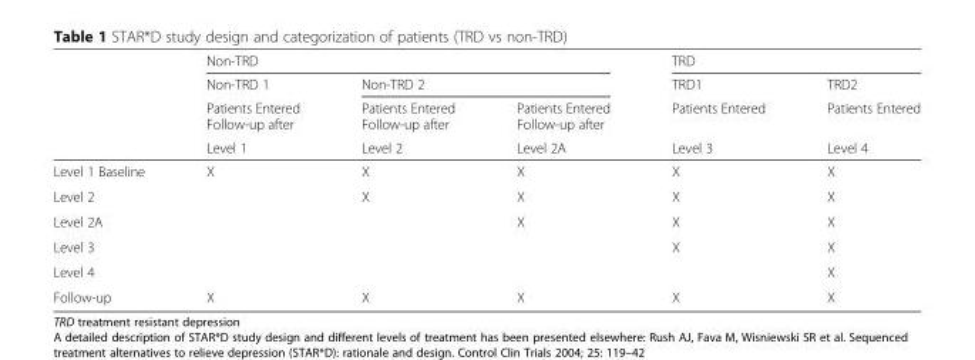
<table><thead><tr><td rowspan="4"></td><td colspan="3">Non-TRD</td><td colspan="2">TRD</td></tr><tr><td rowspan="3">Non-TRD 1 Patients Entered Follow-up after Level 1</td><td colspan="2">Non-TRD 2</td><td rowspan="3">TRD1 Patients Entered Level 3</td><td rowspan="3">TRD2 Patients Entered Level 4</td></tr><tr><td rowspan="2">Patients Entered Follow-up after Level 2</td><td rowspan="2">Patients Entered Follow-up after Level 2A</td></tr><tr></tr></thead><tbody><tr><td>Level 1 Baseline</td><td>X</td><td>X</td><td>X</td><td>X</td><td>X</td></tr><tr><td>Level 2</td><td></td><td>X</td><td>X</td><td>X</td><td>X</td></tr><tr><td>Level 2A</td><td></td><td></td><td>X</td><td>X</td><td>X</td></tr><tr><td>Level 3</td><td></td><td></td><td></td><td>X</td><td>X</td></tr><tr><td>Level 4</td><td></td><td></td><td></td><td></td><td>X</td></tr><tr><td>Follow-up</td><td>X</td><td>X</td><td>X</td><td>X</td><td>X</td></tr></tbody></table>